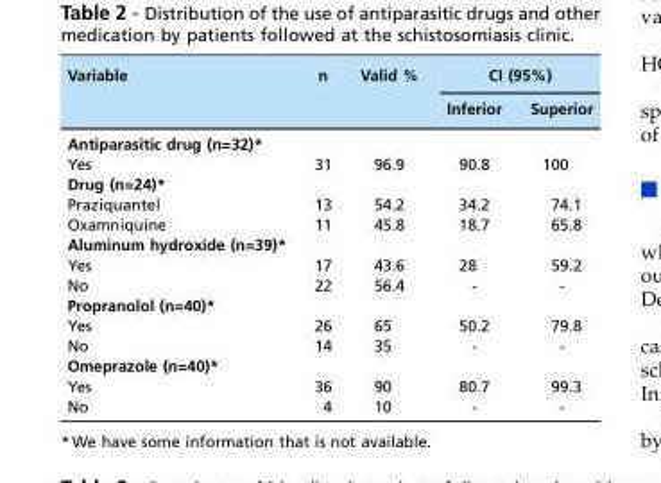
<table><thead><tr><td rowspan="2">Variable</td><td rowspan="2">n</td><td rowspan="2">Valid %</td><td colspan="2">CI (95%)</td></tr><tr><td>Inferior</td><td>Superior</td></tr></thead><tbody><tr><td colspan="5">Antiparasitic drug (n=32)*</td></tr><tr><td>Yes</td><td>31</td><td>96.9</td><td>90.8</td><td>100</td></tr><tr><td colspan="5">Drug (n=24)*</td></tr><tr><td>Praziquantel</td><td>13</td><td>54.2</td><td>34.2</td><td>74.1</td></tr><tr><td>Oxamniquine</td><td>11</td><td>45.8</td><td>18.7</td><td>65.8</td></tr><tr><td colspan="5">Aluminum hydroxide (n=39)*</td></tr><tr><td>Yes</td><td>17</td><td>43.6</td><td>28</td><td>59.2</td></tr><tr><td>No</td><td>22</td><td>56.4</td><td>-</td><td>-</td></tr><tr><td colspan="5">Propranolol (n=40)*</td></tr><tr><td>Yes</td><td>26</td><td>65</td><td>50.2</td><td>79.8</td></tr><tr><td>No</td><td>14</td><td>35</td><td>-</td><td>-</td></tr><tr><td colspan="5">Omeprazole (n=40)*</td></tr><tr><td>Yes</td><td>36</td><td>90</td><td>80.7</td><td>99.3</td></tr><tr><td>No</td><td>4</td><td>10</td><td>-</td><td>-</td></tr></tbody></table>